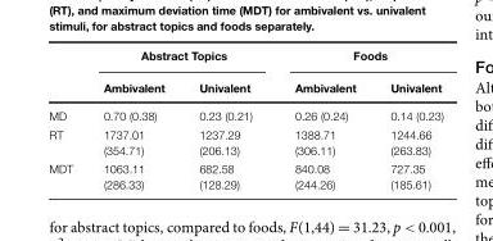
<table><thead><tr><td rowspan="2"></td><td colspan="2">Abstract Topics</td><td colspan="2">Foods</td></tr><tr><td>Ambivalent</td><td>Univalent</td><td>Ambivalent</td><td>Univalent</td></tr></thead><tbody><tr><td>MD</td><td>0.70 (0.38)</td><td>0.23 (0.21)</td><td>0.26 (0.24)</td><td>0.14 (0.23)</td></tr><tr><td>RT</td><td>1737.01 (354.71)</td><td>1237.29 (206.13)</td><td>1388.71 (306.11)</td><td>1244.66 (263.83)</td></tr><tr><td>MDT</td><td>1063.11 (286.33)</td><td>682.58 (128.29)</td><td>840.08 (244.26)</td><td>727.35 (185.61)</td></tr></tbody></table>